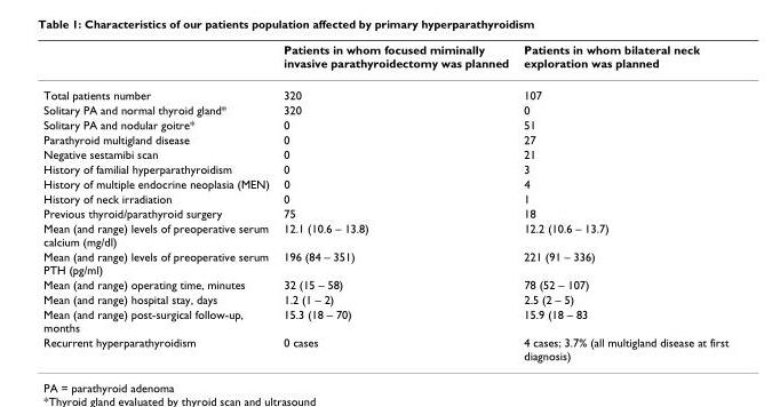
<table><thead><tr><td></td><td>Patients in whom focused miminally invasive parathyroidectomy was planned</td><td>Patients in whom bilateral neck exploration was planned</td></tr></thead><tbody><tr><td>Total patients number</td><td>320</td><td>107</td></tr><tr><td>Solitary PA and normal thyroid gland*</td><td>320</td><td>0</td></tr><tr><td>Solitary PA and nodular goitre*</td><td>0</td><td>51</td></tr><tr><td>Parathyroid multigland disease</td><td>0</td><td>27</td></tr><tr><td>Negative sestamibi scan</td><td>0</td><td>21</td></tr><tr><td>History of familial hyperparathyroidism</td><td>0</td><td>3</td></tr><tr><td>History of multiple endocrine neoplasia (MEN)</td><td>0</td><td>4</td></tr><tr><td>History of neck irradiation</td><td>0</td><td>1</td></tr><tr><td>Previous thyroid/parathyroid surgery</td><td>75</td><td>18</td></tr><tr><td>Mean (and range) levels of preoperative serum calcium (mg/dl)</td><td>12.1 (10.6 – 13.8)</td><td>12.2 (10.6 – 13.7)</td></tr><tr><td>Mean (and range) levels of preoperative serum PTH (pg/ml)</td><td>196 (84 – 351)</td><td>221 (91 – 336)</td></tr><tr><td>Mean (and range) operating time, minutes</td><td>32 (15 – 58)</td><td>78 (52 – 107)</td></tr><tr><td>Mean (and range) hospital stay, days</td><td>1.2 (1 – 2)</td><td>2.5 (2 – 5)</td></tr><tr><td>Mean (and range) post-surgical follow-up, months</td><td>15.3 (18 – 70)</td><td>15.9 (18 – 83</td></tr><tr><td>Recurrent hyperparathyroidism</td><td>0 cases</td><td>4 cases; 3.7% (all multigland disease at first diagnosis)</td></tr></tbody></table>